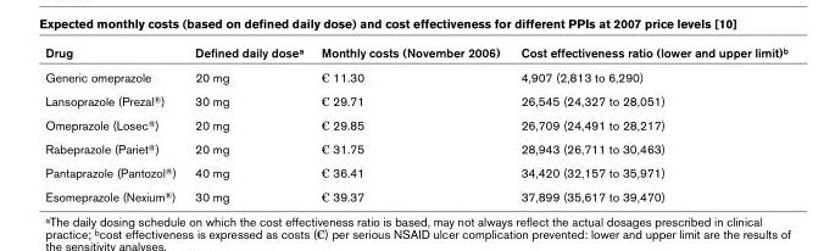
<table><thead><tr><td>Drug</td><td>Defined daily dose<sup>a</sup></td><td>Monthly costs (November 2006)</td><td>Cost effectiveness ratio (lower and upper limit)<sup>b</sup></td></tr></thead><tbody><tr><td>Generic omeprazole</td><td>20 mg</td><td>€ 11.30</td><td>4,907 (2,813 to 6,290)</td></tr><tr><td>Lansoprazole (Prezal<sup>®</sup>)</td><td>30 mg</td><td>€ 29.71</td><td>26,545 (24,327 to 28,051)</td></tr><tr><td>Omeprazole (Losec<sup>®</sup>)</td><td>20 mg</td><td>€ 29.85</td><td>26,709 (24,491 to 28,217)</td></tr><tr><td>Rabeprazole (Pariet<sup>®</sup>)</td><td>20 mg</td><td>€ 31.75</td><td>28,943 (26,711 to 30,463)</td></tr><tr><td>Pantaprazole (Pantozol<sup>®</sup>)</td><td>40 mg</td><td>€ 36.41</td><td>34,420 (32,157 to 35,971)</td></tr><tr><td>Esomeprazole (Nexium<sup>®</sup>)</td><td>30 mg</td><td>€ 39.37</td><td>37,899 (35,617 to 39,470)</td></tr></tbody></table>